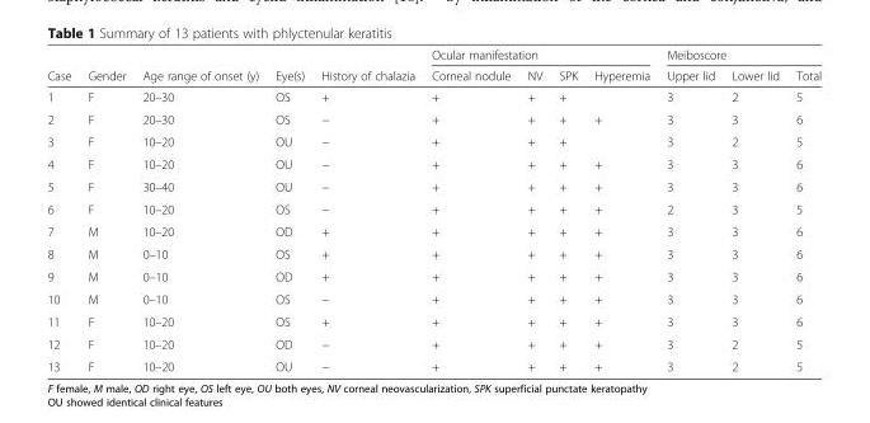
<table><thead><tr><td rowspan="2">Case</td><td rowspan="2">Gender</td><td rowspan="2">Age range of onset (y)</td><td rowspan="2">Eye(s)</td><td rowspan="2">History of chalazia</td><td colspan="4">Ocular manifestation</td><td colspan="3">Meiboscore</td></tr><tr><td>Corneal nodule</td><td>NV</td><td>SPK</td><td>Hyperemia</td><td>Upper lid</td><td>Lower lid</td><td>Total</td></tr></thead><tbody><tr><td>1</td><td>F</td><td>20–30</td><td>OS</td><td>+</td><td>+</td><td>+</td><td>+</td><td></td><td>3</td><td>2</td><td>5</td></tr><tr><td>2</td><td>F</td><td>20–30</td><td>OS</td><td>−</td><td>+</td><td>+</td><td>+</td><td>+</td><td>3</td><td>3</td><td>6</td></tr><tr><td>3</td><td>F</td><td>10–20</td><td>OU</td><td>−</td><td>+</td><td>+</td><td>+</td><td></td><td>3</td><td>2</td><td>5</td></tr><tr><td>4</td><td>F</td><td>10–20</td><td>OU</td><td>−</td><td>+</td><td>+</td><td>+</td><td>+</td><td>3</td><td>3</td><td>6</td></tr><tr><td>5</td><td>F</td><td>30–40</td><td>OU</td><td>−</td><td>+</td><td>+</td><td>+</td><td>+</td><td>3</td><td>3</td><td>6</td></tr><tr><td>6</td><td>F</td><td>10–20</td><td>OS</td><td>−</td><td>+</td><td>+</td><td>+</td><td>+</td><td>2</td><td>3</td><td>5</td></tr><tr><td>7</td><td>M</td><td>10–20</td><td>OD</td><td>+</td><td>+</td><td>+</td><td>+</td><td>+</td><td>3</td><td>3</td><td>6</td></tr><tr><td>8</td><td>M</td><td>0–10</td><td>OS</td><td>+</td><td>+</td><td>+</td><td>+</td><td>+</td><td>3</td><td>3</td><td>6</td></tr><tr><td>9</td><td>M</td><td>0–10</td><td>OD</td><td>+</td><td>+</td><td>+</td><td>+</td><td>+</td><td>3</td><td>3</td><td>6</td></tr><tr><td>10</td><td>M</td><td>0–10</td><td>OS</td><td>−</td><td>+</td><td>+</td><td>+</td><td>+</td><td>3</td><td>3</td><td>6</td></tr><tr><td>11</td><td>F</td><td>10–20</td><td>OS</td><td>+</td><td>+</td><td>+</td><td>+</td><td>+</td><td>3</td><td>3</td><td>6</td></tr><tr><td>12</td><td>F</td><td>10–20</td><td>OD</td><td>−</td><td>+</td><td>+</td><td>+</td><td>+</td><td>3</td><td>2</td><td>5</td></tr><tr><td>13</td><td>F</td><td>10–20</td><td>OU</td><td>−</td><td>+</td><td>+</td><td>+</td><td>+</td><td>3</td><td>2</td><td>5</td></tr></tbody></table>